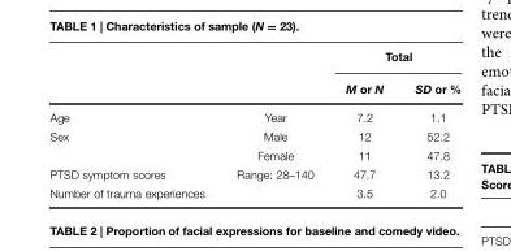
<table><thead><tr><td rowspan="2"></td><td rowspan="2"></td><td colspan="2">Total</td></tr><tr><td>M or N</td><td>SD or %</td></tr></thead><tbody><tr><td>Age</td><td>Year</td><td>7.2</td><td>1.1</td></tr><tr><td rowspan="2">Sex</td><td>Male</td><td>12</td><td>52.2</td></tr><tr><td>Female</td><td>11</td><td>47.8</td></tr><tr><td>PTSD symptom scores</td><td>Range: 28–140</td><td>47.7</td><td>13.2</td></tr><tr><td>Number of trauma experiences</td><td></td><td>3.5</td><td>2.0</td></tr></tbody></table>